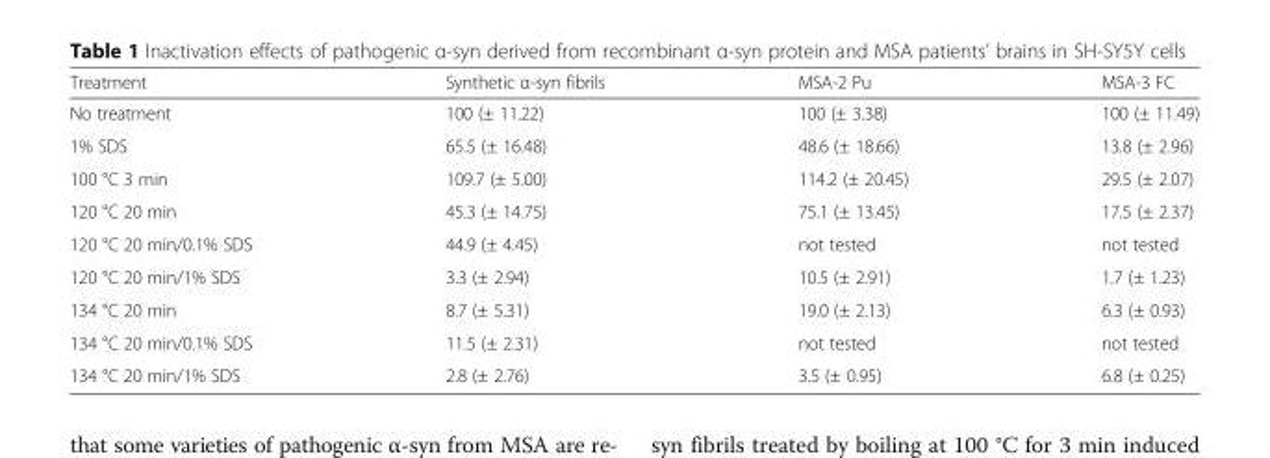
<table><thead><tr><td>Treatment</td><td>Synthetic α-syn fibrils</td><td>MSA-2 Pu</td><td>MSA-3 FC</td></tr></thead><tbody><tr><td>No treatment</td><td>100 (± 11.22)</td><td>100 (± 3.38)</td><td>100 (± 11.49)</td></tr><tr><td>1% SDS</td><td>65.5 (± 16.48)</td><td>48.6 (± 18.66)</td><td>13.8 (± 2.96)</td></tr><tr><td>100 °C 3 min</td><td>109.7 (± 5.00)</td><td>114.2 (± 20.45)</td><td>29.5 (± 2.07)</td></tr><tr><td>120 °C 20 min</td><td>45.3 (± 14.75)</td><td>75.1 (± 13.45)</td><td>17.5 (± 2.37)</td></tr><tr><td>120 °C 20 min/0.1% SDS</td><td>44.9 (± 4.45)</td><td>not tested</td><td>not tested</td></tr><tr><td>120 °C 20 min/1% SDS</td><td>3.3 (± 2.94)</td><td>10.5 (± 2.91)</td><td>1.7 (± 1.23)</td></tr><tr><td>134 °C 20 min</td><td>8.7 (± 5.31)</td><td>19.0 (± 2.13)</td><td>6.3 (± 0.93)</td></tr><tr><td>134 °C 20 min/0.1% SDS</td><td>11.5 (± 2.31)</td><td>not tested</td><td>not tested</td></tr><tr><td>134 °C 20 min/1% SDS</td><td>2.8 (± 2.76)</td><td>3.5 (± 0.95)</td><td>6.8 (± 0.25)</td></tr></tbody></table>